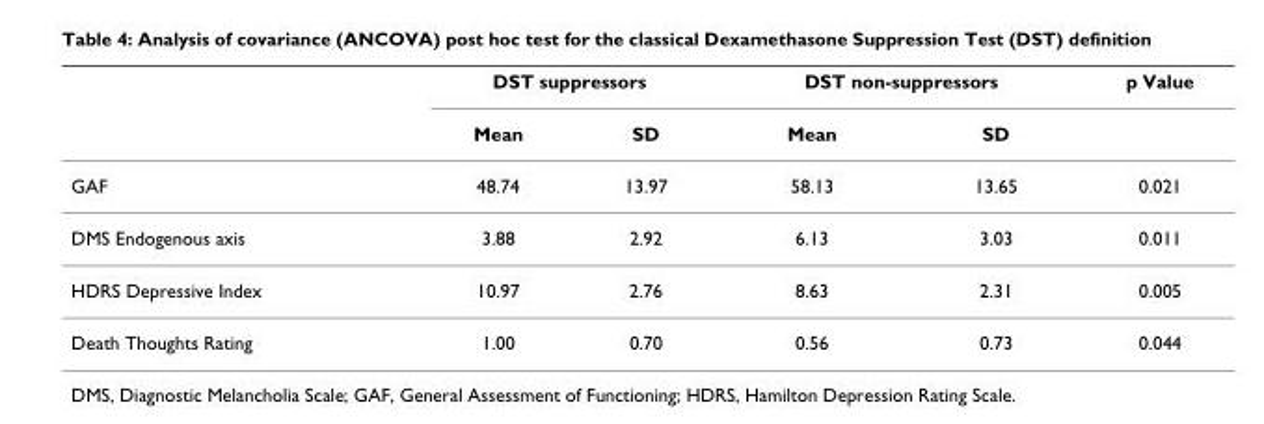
<table><thead><tr><td rowspan="2"></td><td colspan="2">DST suppressors</td><td colspan="2">DST non-suppressors</td><td rowspan="2">p Value</td></tr><tr><td>Mean</td><td>SD</td><td>Mean</td><td>SD</td></tr></thead><tbody><tr><td>GAF</td><td>48.74</td><td>13.97</td><td>58.13</td><td>13.65</td><td>0.021</td></tr><tr><td>DMS Endogenous axis</td><td>3.88</td><td>2.92</td><td>6.13</td><td>3.03</td><td>0.011</td></tr><tr><td>HDRS Depressive Index</td><td>10.97</td><td>2.76</td><td>8.63</td><td>2.31</td><td>0.005</td></tr><tr><td>Death Thoughts Rating</td><td>1.00</td><td>0.70</td><td>0.56</td><td>0.73</td><td>0.044</td></tr></tbody></table>